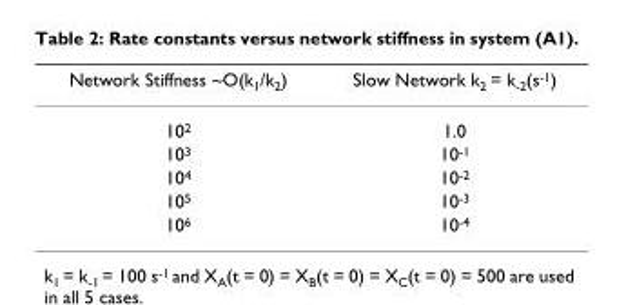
<table><thead><tr><td>Network Stiffness ~O(k<sub>1</sub>/k<sub>2</sub>)</td><td>Slow Network k<sub>2</sub> = k<sub>-2</sub>(s<sup>-1</sup>)</td></tr></thead><tbody><tr><td>10<sup>2</sup></td><td>1.0</td></tr><tr><td>10<sup>3</sup></td><td>10<sup>-1</sup></td></tr><tr><td>10<sup>4</sup></td><td>10<sup>-2</sup></td></tr><tr><td>10<sup>5</sup></td><td>10<sup>-3</sup></td></tr><tr><td>10<sup>6</sup></td><td>10<sup>-4</sup></td></tr></tbody></table>